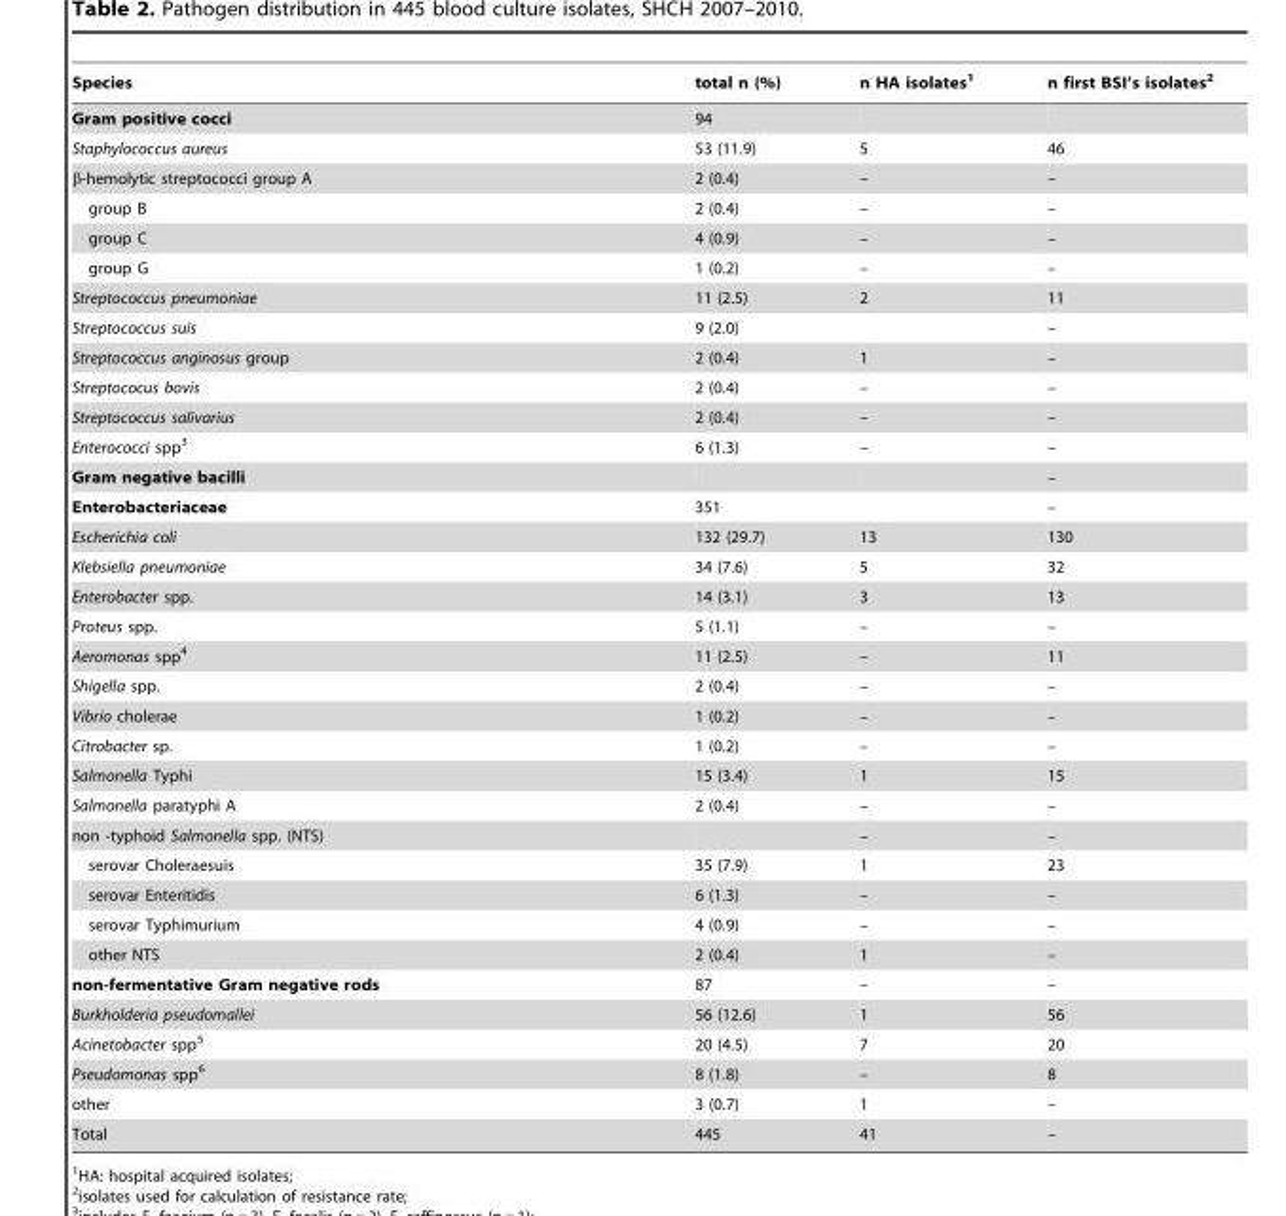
<table><thead><tr><td>Species</td><td>total n (%)</td><td>n HA isolates<sup>1</sup></td><td>n first BSI’s isolates<sup>2</sup></td></tr></thead><tbody><tr><td>Gram positive cocci</td><td>94</td><td></td><td></td></tr><tr><td>Staphylococcus aureus</td><td>53 (11.9)</td><td>5</td><td>46</td></tr><tr><td>β-hemolytic streptococci group A</td><td>2 (0.4)</td><td>–</td><td>–</td></tr><tr><td>group B</td><td>2 (0.4)</td><td>–</td><td>–</td></tr><tr><td>group C</td><td>4 (0.9)</td><td>–</td><td>–</td></tr><tr><td>group G</td><td>1 (0.2)</td><td>–</td><td>–</td></tr><tr><td>Streptococcus pneumoniae</td><td>11 (2.5)</td><td>2</td><td>11</td></tr><tr><td>Streptococcus suis</td><td>9 (2.0)</td><td></td><td>–</td></tr><tr><td>Streptococcus anginosus group</td><td>2 (0.4)</td><td>1</td><td>–</td></tr><tr><td>Streptococus bovis</td><td>2 (0.4)</td><td>–</td><td>–</td></tr><tr><td>Streptococcus salivarius</td><td>2 (0.4)</td><td>–</td><td>–</td></tr><tr><td>Enterococci spp<sup>3</sup></td><td>6 (1.3)</td><td>–</td><td>–</td></tr><tr><td>Gram negative bacilli</td><td></td><td></td><td>–</td></tr><tr><td>Enterobacteriaceae</td><td>351</td><td></td><td>–</td></tr><tr><td>Escherichia coli</td><td>132 (29.7)</td><td>13</td><td>130</td></tr><tr><td>Klebsiella pneumoniae</td><td>34 (7.6)</td><td>5</td><td>32</td></tr><tr><td>Enterobacter spp.</td><td>14 (3.1)</td><td>3</td><td>13</td></tr><tr><td>Proteus spp.</td><td>5 (1.1)</td><td>–</td><td>–</td></tr><tr><td>Aeromonas spp<sup>4</sup></td><td>11 (2.5)</td><td>–</td><td>11</td></tr><tr><td>Shigella spp.</td><td>2 (0.4)</td><td>–</td><td>–</td></tr><tr><td>Vibrio cholerae</td><td>1 (0.2)</td><td>–</td><td>–</td></tr><tr><td>Citrobacter sp.</td><td>1 (0.2)</td><td>–</td><td>–</td></tr><tr><td>Salmonella Typhi</td><td>15 (3.4)</td><td>1</td><td>15</td></tr><tr><td>Salmonella paratyphi A</td><td>2 (0.4)</td><td>–</td><td>–</td></tr><tr><td>non -typhoid Salmonella spp. (NTS)</td><td></td><td>–</td><td>–</td></tr><tr><td>serovar Choleraesuis</td><td>35 (7.9)</td><td>1</td><td>23</td></tr><tr><td>serovar Enteritidis</td><td>6 (1.3)</td><td>–</td><td>–</td></tr><tr><td>serovar Typhimurium</td><td>4 (0.9)</td><td>–</td><td>–</td></tr><tr><td>other NTS</td><td>2 (0.4)</td><td>1</td><td>–</td></tr><tr><td>non-fermentative Gram negative rods</td><td>87</td><td>–</td><td>–</td></tr><tr><td>Burkholderia pseudomallei</td><td>56 (12.6)</td><td>1</td><td>56</td></tr><tr><td>Acinetobacter spp<sup>5</sup></td><td>20 (4.5)</td><td>7</td><td>20</td></tr><tr><td>Pseudomonas spp<sup>6</sup></td><td>8 (1.8)</td><td>–</td><td>8</td></tr><tr><td>other</td><td>3 (0.7)</td><td>1</td><td>–</td></tr><tr><td>Total</td><td>445</td><td>41</td><td>–</td></tr></tbody></table>